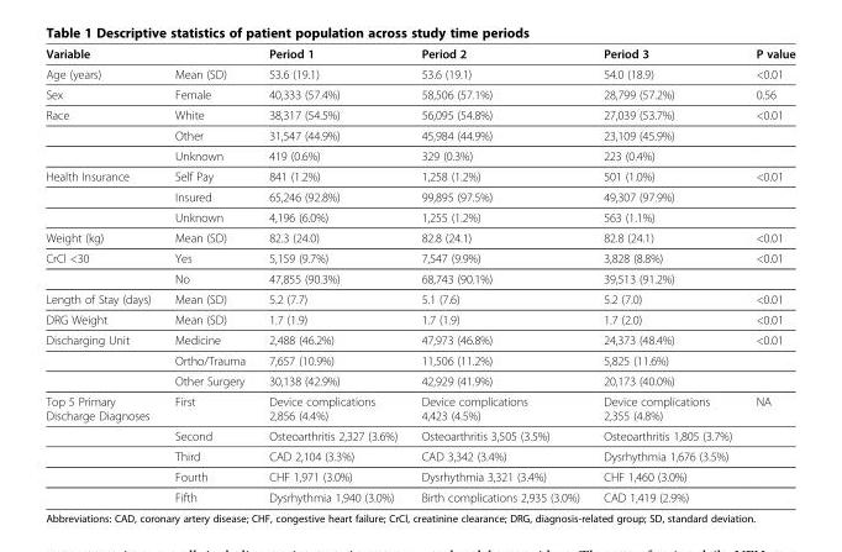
<table><thead><tr><td>Variable</td><td></td><td>Period 1</td><td>Period 2</td><td>Period 3</td><td>P value</td></tr></thead><tbody><tr><td>Age (years)</td><td>Mean (SD)</td><td>53.6 (19.1)</td><td>53.6 (19.1)</td><td>54.0 (18.9)</td><td>&lt;0.01</td></tr><tr><td>Sex</td><td>Female</td><td>40,333 (57.4%)</td><td>58,506 (57.1%)</td><td>28,799 (57.2%)</td><td>0.56</td></tr><tr><td rowspan="3">Race</td><td>White</td><td>38,317 (54.5%)</td><td>56,095 (54.8%)</td><td>27,039 (53.7%)</td><td>&lt;0.01</td></tr><tr><td>Other</td><td>31,547 (44.9%)</td><td>45,984 (44.9%)</td><td>23,109 (45.9%)</td><td></td></tr><tr><td>Unknown</td><td>419 (0.6%)</td><td>329 (0.3%)</td><td>223 (0.4%)</td><td></td></tr><tr><td rowspan="3">Health Insurance</td><td>Self Pay</td><td>841 (1.2%)</td><td>1,258 (1.2%)</td><td>501 (1.0%)</td><td>&lt;0.01</td></tr><tr><td>Insured</td><td>65,246 (92.8%)</td><td>99,895 (97.5%)</td><td>49,307 (97.9%)</td><td></td></tr><tr><td>Unknown</td><td>4,196 (6.0%)</td><td>1,255 (1.2%)</td><td>563 (1.1%)</td><td></td></tr><tr><td>Weight (kg)</td><td>Mean (SD)</td><td>82.3 (24.0)</td><td>82.8 (24.1)</td><td>82.8 (24.1)</td><td>&lt;0.01</td></tr><tr><td rowspan="2">CrCl &lt;30</td><td>Yes</td><td>5,159 (9.7%)</td><td>7,547 (9.9%)</td><td>3,828 (8.8%)</td><td>&lt;0.01</td></tr><tr><td>No</td><td>47,855 (90.3%)</td><td>68,743 (90.1%)</td><td>39,513 (91.2%)</td><td></td></tr><tr><td>Length of Stay (days)</td><td>Mean (SD)</td><td>5.2 (7.7)</td><td>5.1 (7.6)</td><td>5.2 (7.0)</td><td>&lt;0.01</td></tr><tr><td>DRG Weight</td><td>Mean (SD)</td><td>1.7 (1.9)</td><td>1.7 (1.9)</td><td>1.7 (2.0)</td><td>&lt;0.01</td></tr><tr><td rowspan="3">Discharging Unit</td><td>Medicine</td><td>2,488 (46.2%)</td><td>47,973 (46.8%)</td><td>24,373 (48.4%)</td><td>&lt;0.01</td></tr><tr><td>Ortho/Trauma</td><td>7,657 (10.9%)</td><td>11,506 (11.2%)</td><td>5,825 (11.6%)</td><td></td></tr><tr><td>Other Surgery</td><td>30,138 (42.9%)</td><td>42,929 (41.9%)</td><td>20,173 (40.0%)</td><td></td></tr><tr><td rowspan="5">Top 5 Primary Discharge Diagnoses</td><td>First</td><td>Device complications 2,856 (4.4%)</td><td>Device complications 4,423 (4.5%)</td><td>Device complications 2,355 (4.8%)</td><td>NA</td></tr><tr><td>Second</td><td>Osteoarthritis 2,327 (3.6%)</td><td>Osteoarthritis 3,505 (3.5%)</td><td>Osteoarthritis 1,805 (3.7%)</td><td></td></tr><tr><td>Third</td><td>CAD 2,104 (3.3%)</td><td>CAD 3,342 (3.4%)</td><td>Dysrhythmia 1,676 (3.5%)</td><td></td></tr><tr><td>Fourth</td><td>CHF 1,971 (3.0%)</td><td>Dysrhythmia 3,321 (3.4%)</td><td>CHF 1,460 (3.0%)</td><td></td></tr><tr><td>Fifth</td><td>Dysrhythmia 1,940 (3.0%)</td><td>Birth complications 2,935 (3.0%)</td><td>CAD 1,419 (2.9%)</td><td></td></tr></tbody></table>